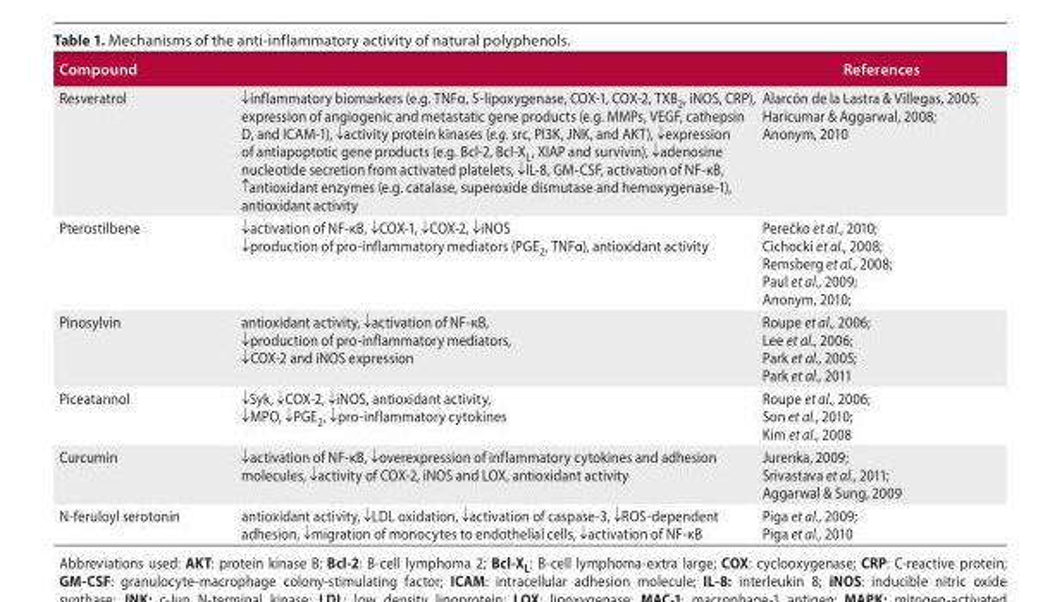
<table><thead><tr><td>Compound</td><td></td><td>References</td></tr></thead><tbody><tr><td>Resveratrol</td><td>↓inflammatory biomarkers (e.g. TNFα, 5-lipoxygenase, COX-1, COX-2, TXB<sub>2</sub>, iNOS, CRP), expression of angiogenic and metastatic gene products (e.g. MMPs, VEGF, cathepsin D, and ICAM-1), ↓activity protein kinases (e.g. src, PI3K, JNK, and AKT), ↓expression of antiapoptotic gene products (e.g. Bcl-2, Bcl-X<sub>L</sub>, XIAP and survivin), ↓adenosine nucleotide secretion from activated platelets, ↓IL-8, GM-CSF, activation of NF-κB, ↑antioxidant enzymes (e.g. catalase, superoxide dismutase and hemoxygenase-1), antioxidant activity</td><td>Alarcón de la Lastra &amp; Villegas, <sup>2005</sup>; Haricumar &amp; Aggarwal, 2008; Anonym, 2010</td></tr><tr><td>Pterostilbene</td><td>↓activation of NF-κB, ↓COX-1, ↓COX-2, ↓iNOS ↓production of pro-inflammatory mediators (PGE<sub>2</sub>, TNFα), antioxidant activity</td><td>Perečko et al., 2010; Cichocki et al., 2008; Remsberg et al., 2008; Paul et al., 2009; Anonym, 2010;</td></tr><tr><td>Pinosylvin</td><td>antioxidant activity, ↓activation of NF-κB, ↓production of pro-inflammatory mediators, ↓COX-2 and iNOS expression</td><td>Roupe et al., 2006; Lee et al., 2006; Park et al., 2005; Park et al., 2011</td></tr><tr><td>Piceatannol</td><td>↓Syk, ↓COX-2, ↓iNOS, antioxidant activity, ↓MPO, ↓PGE<sub>2</sub>, ↓pro-inflammatory cytokines</td><td>Roupe et al., 2006; Son et al., 2010; Kim et al., 2008</td></tr><tr><td>Curcumin</td><td>↓activation of NF-κB, ↓overexpression of inflammatory cytokines and adhesion molecules, ↓activity of COX-2, iNOS and LOX, antioxidant activity</td><td>Jurenka, 2009; Srivastava et al., 2011; Aggarwal &amp; Sung, 2009</td></tr><tr><td>N-feruloyl serotonin</td><td>antioxidant activity, ↓LDL oxidation, ↓activation of caspase-3, ↓ROS-dependent adhesion, ↓migration of monocytes to endothelial cells, ↓activation of NF-κB</td><td>Piga et al., 2009; Piga et al., 2010</td></tr></tbody></table>